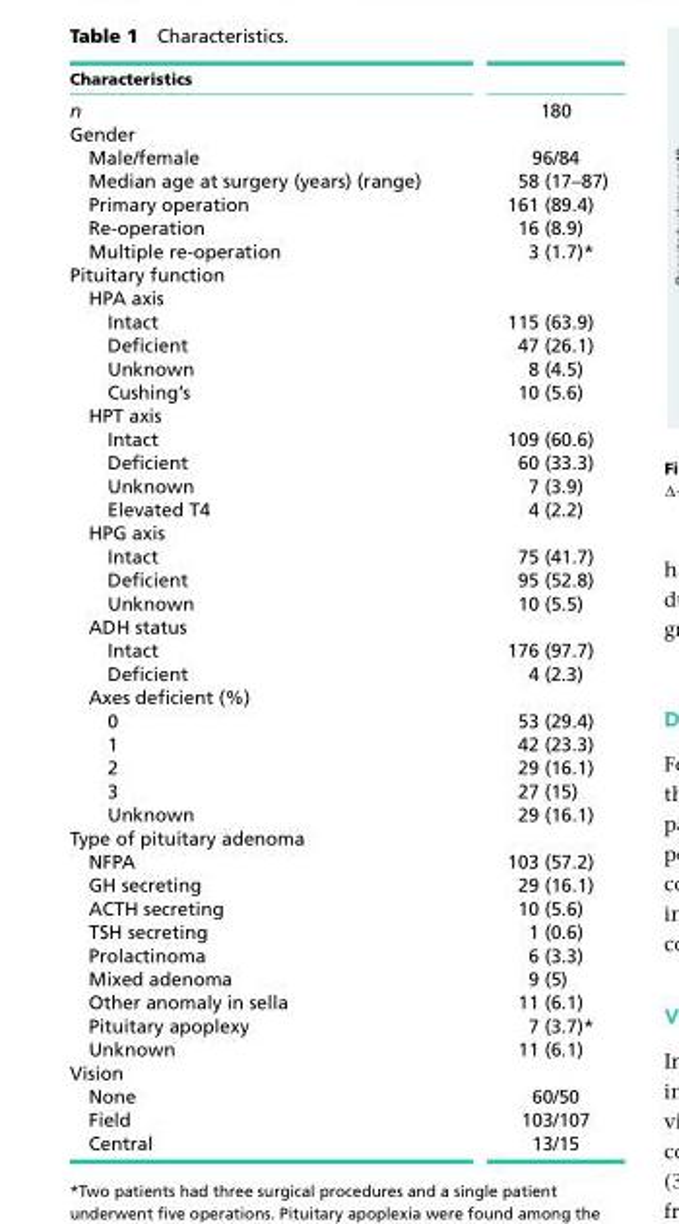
<table><thead><tr><td>Characteristics</td><td></td></tr></thead><tbody><tr><td>n</td><td>180</td></tr><tr><td colspan="2">Gender</td></tr><tr><td>Male/female</td><td>96/84</td></tr><tr><td>Median age at surgery (years) (range)</td><td>58 (17–87)</td></tr><tr><td>Primary operation</td><td>161 (89.4)</td></tr><tr><td>Re-operation</td><td>16 (8.9)</td></tr><tr><td>Multiple re-operation</td><td>3 (1.7)*</td></tr><tr><td colspan="2">Pituitary function</td></tr><tr><td colspan="2">HPA axis</td></tr><tr><td>Intact</td><td>115 (63.9)</td></tr><tr><td>Deficient</td><td>47 (26.1)</td></tr><tr><td>Unknown</td><td>8 (4.5)</td></tr><tr><td>Cushing’s</td><td>10 (5.6)</td></tr><tr><td colspan="2">HPT axis</td></tr><tr><td>Intact</td><td>109 (60.6)</td></tr><tr><td>Deficient</td><td>60 (33.3)</td></tr><tr><td>Unknown</td><td>7 (3.9)</td></tr><tr><td>Elevated T4</td><td>4 (2.2)</td></tr><tr><td colspan="2">HPG axis</td></tr><tr><td>Intact</td><td>75 (41.7)</td></tr><tr><td>Deficient</td><td>95 (52.8)</td></tr><tr><td>Unknown</td><td>10 (5.5)</td></tr><tr><td colspan="2">ADH status</td></tr><tr><td>Intact</td><td>176 (97.7)</td></tr><tr><td>Deficient</td><td>4 (2.3)</td></tr><tr><td colspan="2">Axes deficient (%)</td></tr><tr><td>0</td><td>53 (29.4)</td></tr><tr><td>1</td><td>42 (23.3)</td></tr><tr><td>2</td><td>29 (16.1)</td></tr><tr><td>3</td><td>27 (15)</td></tr><tr><td>Unknown</td><td>29 (16.1)</td></tr><tr><td colspan="2">Type of pituitary adenoma</td></tr><tr><td>NFPA</td><td>103 (57.2)</td></tr><tr><td>GH secreting</td><td>29 (16.1)</td></tr><tr><td>ACTH secreting</td><td>10 (5.6)</td></tr><tr><td>TSH secreting</td><td>1 (0.6)</td></tr><tr><td>Prolactinoma</td><td>6 (3.3)</td></tr><tr><td>Mixed adenoma</td><td>9 (5)</td></tr><tr><td>Other anomaly in sella</td><td>11 (6.1)</td></tr><tr><td>Pituitary apoplexy</td><td>7 (3.7)*</td></tr><tr><td>Unknown</td><td>11 (6.1)</td></tr><tr><td colspan="2">Vision</td></tr><tr><td>None</td><td>60/50</td></tr><tr><td>Field</td><td>103/107</td></tr><tr><td>Central</td><td>13/15</td></tr></tbody></table>